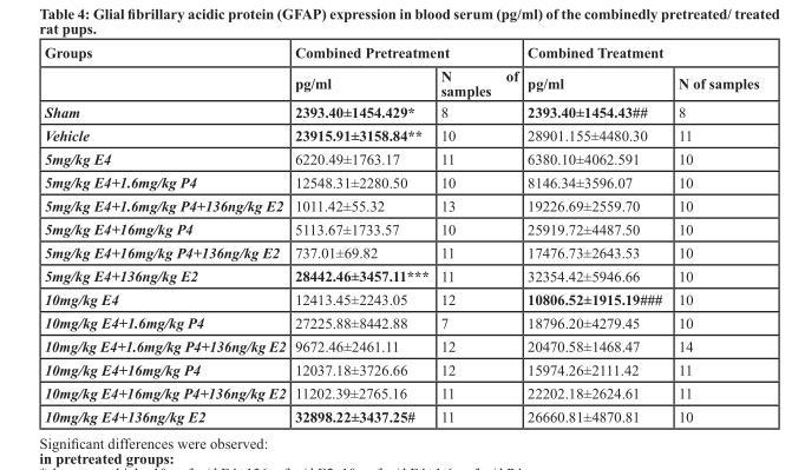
<table><thead><tr><td rowspan="2">Groups</td><td colspan="2">combined Pretreatment</td><td colspan="2">combined treatment</td></tr><tr><td>pg/ml</td><td>n of samples</td><td>pg/ml</td><td>n of samples</td></tr></thead><tbody><tr><td>Sham</td><td>2393.40±1454.429*</td><td>8</td><td>2393.40±1454.43##</td><td>8</td></tr><tr><td>Vehicle</td><td>23915.91±3158.84**</td><td>10</td><td>28901.155±4480.30</td><td>11</td></tr><tr><td>5mg/kg E4</td><td>6220.49±1763.17</td><td>11</td><td>6380.10±4062.591</td><td>10</td></tr><tr><td>5mg/kg E4+1.6mg/kg P4</td><td>12548.31±2280.50</td><td>10</td><td>8146.34±3596.07</td><td>10</td></tr><tr><td>5mg/kg E4+1.6mg/kg P4+136ng/kg E2</td><td>1011.42±55.32</td><td>13</td><td>19226.69±2559.70</td><td>10</td></tr><tr><td>5mg/kg E4+16mg/kg P4</td><td>5113.67±1733.57</td><td>10</td><td>25919.72±4487.50</td><td>10</td></tr><tr><td>5mg/kg E4+16mg/kg P4+136ng/kg E2</td><td>737.01±69.82</td><td>11</td><td>17476.73±2643.53</td><td>10</td></tr><tr><td>5mg/kg E4+136ng/kg E2</td><td>28442.46±3457.11***</td><td>11</td><td>32354.42±5946.66</td><td>10</td></tr><tr><td>10mg/kg E4</td><td>12413.45±2243.05</td><td>12</td><td>10806.52±1915.19###</td><td>10</td></tr><tr><td>10mg/kg E4+1.6mg/kg P4</td><td>27225.88±8442.88</td><td>7</td><td>18796.20±4279.45</td><td>10</td></tr><tr><td>10mg/kg E4+1.6mg/kg P4+136ng/kg E2</td><td>9672.46±2461.11</td><td>12</td><td>20470.58±1468.47</td><td>14</td></tr><tr><td>10mg/kg E4+16mg/kg P4</td><td>12037.18±3726.66</td><td>12</td><td>15974.26±2111.42</td><td>11</td></tr><tr><td>10mg/kg E4+16mg/kg P4+136ng/kg E2</td><td>11202.39±2765.16</td><td>11</td><td>22202.18±2624.61</td><td>11</td></tr><tr><td>10mg/kg E4+136ng/kg E2</td><td>32898.22±3437.25#</td><td>11</td><td>26660.81±4870.81</td><td>10</td></tr></tbody></table>